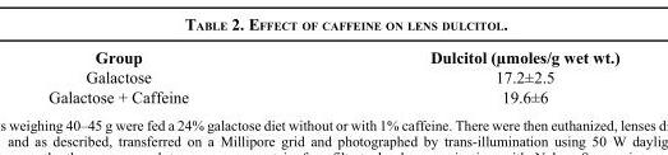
<table><thead><tr><td>Group</td><td>Dulcitol (µmoles/g wet wt.)</td></tr></thead><tbody><tr><td>Galactose</td><td>17.2±2.5</td></tr><tr><td>Galactose + Caffeine</td><td>19.6±6</td></tr></tbody></table>